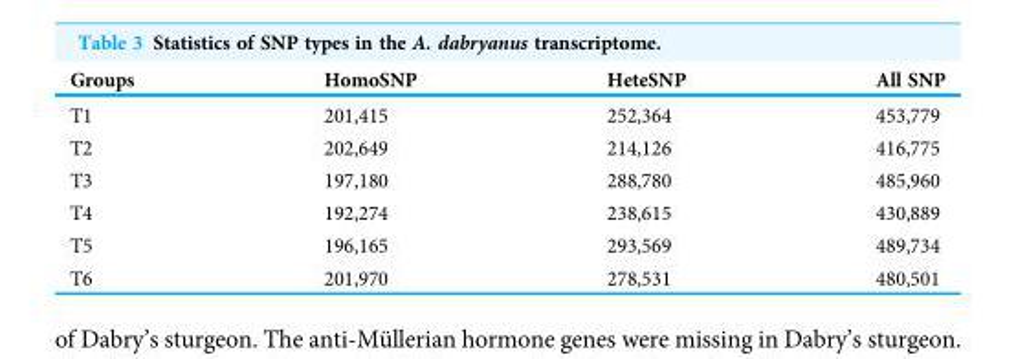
<table><thead><tr><td>Groups</td><td>HomoSNP</td><td>HeteSNP</td><td>All SNP</td></tr></thead><tbody><tr><td>T1</td><td>201,415</td><td>252,364</td><td>453,779</td></tr><tr><td>T2</td><td>202,649</td><td>214,126</td><td>416,775</td></tr><tr><td>T3</td><td>197,180</td><td>288,780</td><td>485,960</td></tr><tr><td>T4</td><td>192,274</td><td>238,615</td><td>430,889</td></tr><tr><td>T5</td><td>196,165</td><td>293,569</td><td>489,734</td></tr><tr><td>T6</td><td>201,970</td><td>278,531</td><td>480,501</td></tr></tbody></table>